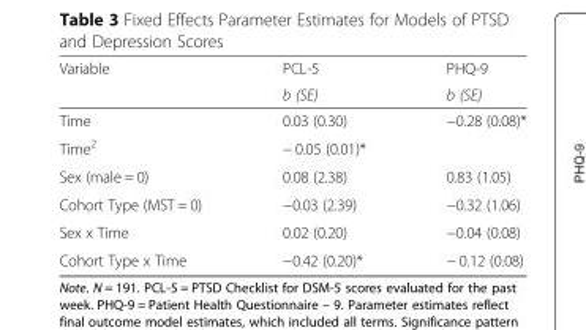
<table><thead><tr><td rowspan="2">Variable</td><td rowspan="2">PCL-5 b (SE)</td><td rowspan="2">PHQ-9 b (SE)</td></tr><tr></tr></thead><tbody><tr><td>Time</td><td>0.03 (0.30)</td><td>−0.28 (0.08)*</td></tr><tr><td>Time<sup>2</sup></td><td>− 0.05 (0.01)*</td><td></td></tr><tr><td>Sex (male = 0)</td><td>0.08 (2.38)</td><td>0.83 (1.05)</td></tr><tr><td>Cohort Type (MST = 0)</td><td>−0.03 (2.39)</td><td>−0.32 (1.06)</td></tr><tr><td>Sex x Time</td><td>0.02 (0.20)</td><td>−0.04 (0.08)</td></tr><tr><td>Cohort Type x Time</td><td>−0.42 (0.20)*</td><td>− 0.12 (0.08)</td></tr></tbody></table>